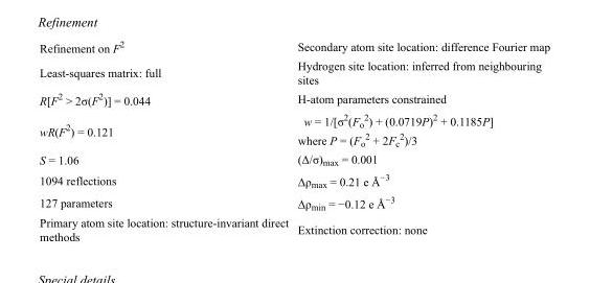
<table><tbody><tr><td>Refinement on F<sup>2</sup></td><td>Secondary atom site location: difference Fourier map</td></tr><tr><td>Least-squares matrix: full</td><td>Hydrogen site location: inferred from neighbouring sites</td></tr><tr><td>R[F<sup>2</sup> &gt; 2σ(F<sup>2</sup>)] = 0.044</td><td>H-atom parameters constrained</td></tr><tr><td>wR(F<sup>2</sup>) = 0.121</td><td>w = 1/[σ<sup>2</sup>(F<sub>o</sub> <sup>2</sup>) + (0.0719P)<sup>2</sup> + 0.1185P] where P = (F<sub>o</sub> <sup>2</sup> + 2F<sub>c</sub> <sup>2</sup>)/3</td></tr><tr><td>S = 1.06</td><td>(Δ/σ)<sub>max</sub> = 0.001</td></tr><tr><td>1094 reflections</td><td>Δρ<sub>max</sub> = 0.21 e Å<sup>−3</sup></td></tr><tr><td>127 parameters</td><td>Δρ<sub>min</sub> = −0.12 e Å<sup>−3</sup></td></tr><tr><td>Primary atom site location: structure-invariant direct methods</td><td>Extinction correction: none</td></tr></tbody></table>